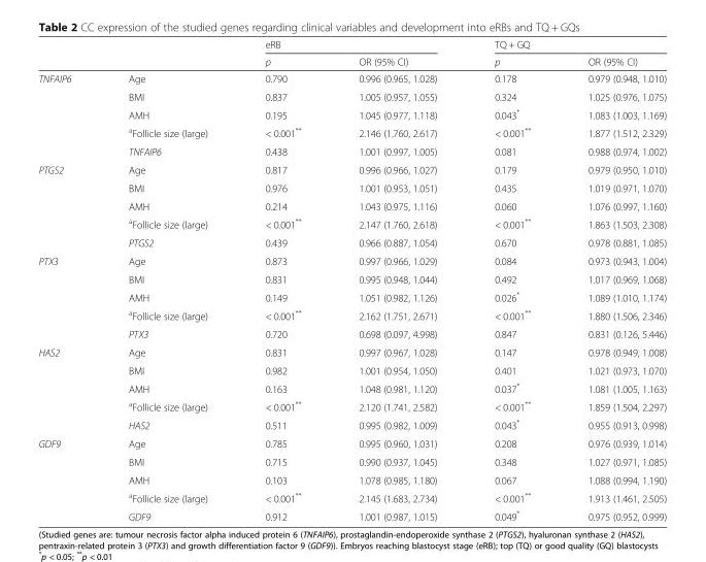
<table><thead><tr><td rowspan="2"></td><td rowspan="2"></td><td colspan="2">eRB</td><td colspan="2">TQ + GQ</td></tr><tr><td>p</td><td>OR (95% CI)</td><td>p</td><td>OR (95% CI)</td></tr></thead><tbody><tr><td rowspan="5">TNFAIP6</td><td>Age</td><td>0.790</td><td>0.996 (0.965, 1.028)</td><td>0.178</td><td>0.979 (0.948, 1.010)</td></tr><tr><td>BMI</td><td>0.837</td><td>1.005 (0.957, 1.055)</td><td>0.324</td><td>1.025 (0.976, 1.075)</td></tr><tr><td>AMH</td><td>0.195</td><td>1.045 (0.977, 1.118)</td><td>0.043*</td><td>1.083 (1.003, 1.169)</td></tr><tr><td><sup>a</sup>Follicle size (large)</td><td>&lt; 0.001**</td><td>2.146 (1.760, 2.617)</td><td>&lt; 0.001**</td><td>1.877 (1.512, 2.329)</td></tr><tr><td>TNFAIP6</td><td>0.438</td><td>1.001 (0.997, 1.005)</td><td>0.081</td><td>0.988 (0.974, 1.002)</td></tr><tr><td rowspan="5">PTGS2</td><td>Age</td><td>0.817</td><td>0.996 (0.966, 1.027)</td><td>0.179</td><td>0.979 (0.950, 1.010)</td></tr><tr><td>BMI</td><td>0.976</td><td>1.001 (0.953, 1.051)</td><td>0.435</td><td>1.019 (0.971, 1.070)</td></tr><tr><td>AMH</td><td>0.214</td><td>1.043 (0.975, 1.116)</td><td>0.060</td><td>1.076 (0.997, 1.160)</td></tr><tr><td><sup>a</sup>Follicle size (large)</td><td>&lt; 0.001**</td><td>2.147 (1.760, 2.618)</td><td>&lt; 0.001**</td><td>1.863 (1.503, 2.308)</td></tr><tr><td>PTGS2</td><td>0.439</td><td>0.966 (0.887, 1.054)</td><td>0.670</td><td>0.978 (0.881, 1.085)</td></tr><tr><td rowspan="5">PTX3</td><td>Age</td><td>0.873</td><td>0.997 (0.966, 1.029)</td><td>0.084</td><td>0.973 (0.943, 1.004)</td></tr><tr><td>BMI</td><td>0.831</td><td>0.995 (0.948, 1.044)</td><td>0.492</td><td>1.017 (0.969, 1.068)</td></tr><tr><td>AMH</td><td>0.149</td><td>1.051 (0.982, 1.126)</td><td>0.026*</td><td>1.089 (1.010, 1.174)</td></tr><tr><td><sup>a</sup>Follicle size (large)</td><td>&lt; 0.001**</td><td>2.162 (1.751, 2.671)</td><td>&lt; 0.001**</td><td>1.880 (1.506, 2.346)</td></tr><tr><td>PTX3</td><td>0.720</td><td>0.698 (0.097, 4.998)</td><td>0.847</td><td>0.831 (0.126, 5.446)</td></tr><tr><td rowspan="5">HAS2</td><td>Age</td><td>0.831</td><td>0.997 (0.967, 1.028)</td><td>0.147</td><td>0.978 (0.949, 1.008)</td></tr><tr><td>BMI</td><td>0.982</td><td>1.001 (0.954, 1.050)</td><td>0.401</td><td>1.021 (0.973, 1.070)</td></tr><tr><td>AMH</td><td>0.163</td><td>1.048 (0.981, 1.120)</td><td>0.037*</td><td>1.081 (1.005, 1.163)</td></tr><tr><td><sup>a</sup>Follicle size (large)</td><td>&lt; 0.001**</td><td>2.120 (1.741, 2.582)</td><td>&lt; 0.001**</td><td>1.859 (1.504, 2.297)</td></tr><tr><td>HAS2</td><td>0.511</td><td>0.995 (0.982, 1.009)</td><td>0.043*</td><td>0.955 (0.913, 0.998)</td></tr><tr><td rowspan="5">GDF9</td><td>Age</td><td>0.785</td><td>0.995 (0.960, 1.031)</td><td>0.208</td><td>0.976 (0.939, 1.014)</td></tr><tr><td>BMI</td><td>0.715</td><td>0.990 (0.937, 1.045)</td><td>0.348</td><td>1.027 (0.971, 1.085)</td></tr><tr><td>AMH</td><td>0.103</td><td>1.078 (0.985, 1.180)</td><td>0.067</td><td>1.088 (0.994, 1.190)</td></tr><tr><td><sup>a</sup>Follicle size (large)</td><td>&lt; 0.001**</td><td>2.145 (1.683, 2.734)</td><td>&lt; 0.001**</td><td>1.913 (1.461, 2.505)</td></tr><tr><td>GDF9</td><td>0.912</td><td>1.001 (0.987, 1.015)</td><td>0.049*</td><td>0.975 (0.952, 0.999)</td></tr></tbody></table>